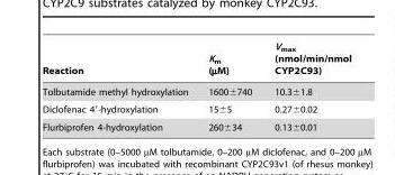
<table><thead><tr><td>Reaction</td><td>K<sub>m</sub> (µM)</td><td>V<sub>max</sub> (nmol/min/nmol CYP2C93)</td></tr></thead><tbody><tr><td>Tolbutamide methyl hydroxylation</td><td>1600±740</td><td>10.3±1.8</td></tr><tr><td>Diclofenac 4′-hydroxylation</td><td>15±5</td><td>0.27±0.02</td></tr><tr><td>Flurbiprofen 4-hydroxylation</td><td>260±34</td><td>0.13±0.01</td></tr></tbody></table>